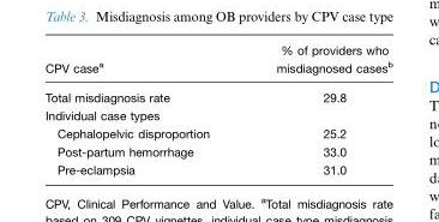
<table><thead><tr><td>CPV case<sup>a</sup></td><td>% of providers who misdiagnosed cases<sup>b</sup></td></tr></thead><tbody><tr><td>Total misdiagnosis rate</td><td>29.8</td></tr><tr><td colspan="2">Individual case types</td></tr><tr><td>Cephalopelvic disproportion</td><td>25.2</td></tr><tr><td>Post-partum hemorrhage</td><td>33.0</td></tr><tr><td>Pre-eclampsia</td><td>31.0</td></tr></tbody></table>